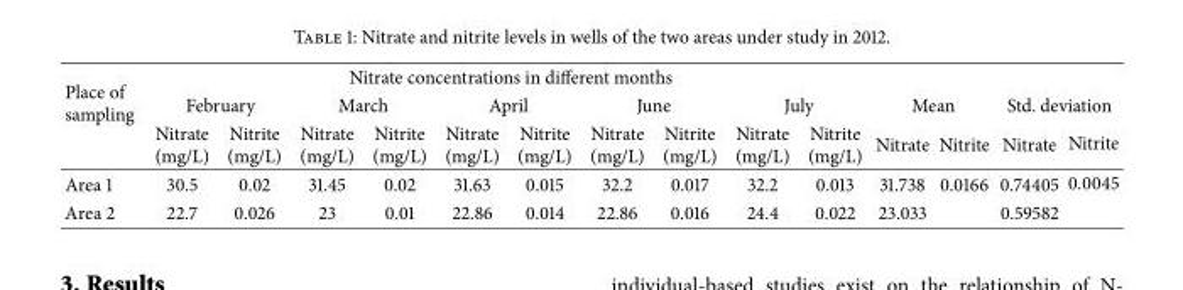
<table><thead><tr><td rowspan="3">Place of sampling</td><td colspan="14">Nitrate concentrations in different months</td></tr><tr><td colspan="2">February</td><td colspan="2">March</td><td colspan="2">April</td><td colspan="2">June</td><td colspan="2">July</td><td colspan="2">Mean</td><td colspan="2">Std. deviation</td></tr><tr><td>Nitrate (mg/L)</td><td>Nitrite (mg/L)</td><td>Nitrate (mg/L)</td><td>Nitrite (mg/L)</td><td>Nitrate (mg/L)</td><td>Nitrite (mg/L)</td><td>Nitrate (mg/L)</td><td>Nitrite (mg/L)</td><td>Nitrate (mg/L)</td><td>Nitrite (mg/L)</td><td>Nitrate</td><td>Nitrite</td><td>Nitrate</td><td>Nitrite</td></tr></thead><tbody><tr><td>Area 1</td><td>30.5</td><td>0.02</td><td>31.45</td><td>0.02</td><td>31.63</td><td>0.015</td><td>32.2</td><td>0.017</td><td>32.2</td><td>0.013</td><td>31.738</td><td>0.0166</td><td>0.74405</td><td>0.0045</td></tr><tr><td>Area 2</td><td>22.7</td><td>0.026</td><td>23</td><td>0.01</td><td>22.86</td><td>0.014</td><td>22.86</td><td>0.016</td><td>24.4</td><td>0.022</td><td>23.033</td><td></td><td>0.59582</td><td></td></tr></tbody></table>